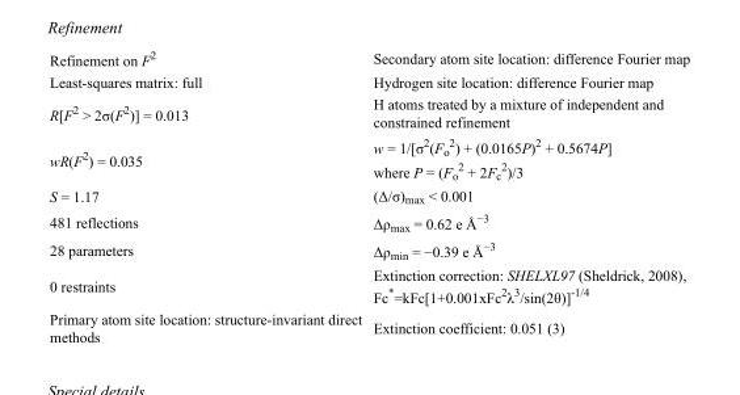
<table><tbody><tr><td>Refinement on F<sup>2</sup></td><td>Secondary atom site location: difference Fourier map</td></tr><tr><td>Least-squares matrix: full</td><td>Hydrogen site location: difference Fourier map</td></tr><tr><td>R[F<sup>2</sup> &gt; 2σ(F<sup>2</sup>)] = 0.013</td><td>H atoms treated by a mixture of independent and constrained refinement</td></tr><tr><td>wR(F<sup>2</sup>) = 0.035</td><td>w = 1/[σ<sup>2</sup>(F<sub>o</sub> <sup>2</sup>) + (0.0165P)<sup>2</sup> + 0.5674P] where P = (F<sub>o</sub> <sup>2</sup> + 2F<sub>c</sub> <sup>2</sup>)/3</td></tr><tr><td>S = 1.17</td><td>(Δ/σ)<sub>max</sub> &lt; 0.001</td></tr><tr><td>481 reflections</td><td>Δρ<sub>max</sub> = 0.62 e Å<sup>−3</sup></td></tr><tr><td>28 parameters</td><td>Δρ<sub>min</sub> = −0.39 e Å<sup>−3</sup></td></tr><tr><td>0 restraints</td><td>Extinction correction: SHELXL97 (Sheldrick, 2008), Fc*=kFc[1+0.001xFc<sup>2</sup>λ<sup>3</sup>/sin(2θ)]<sup>-1/4</sup></td></tr><tr><td>Primary atom site location: structure-invariant direct methods</td><td>Extinction coefficient: 0.051 (3)</td></tr></tbody></table>